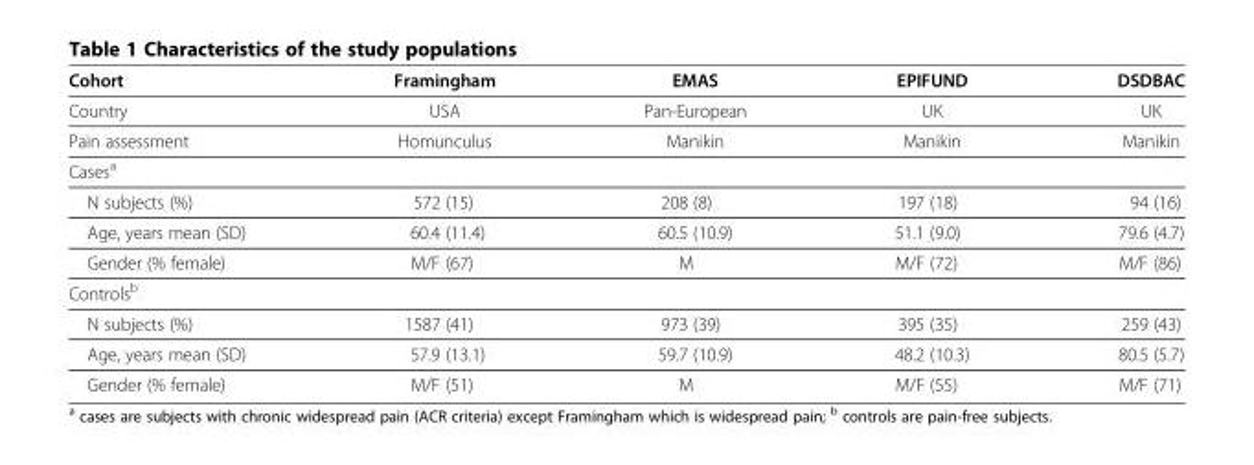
<table><thead><tr><td rowspan="3">Cohort Country Pain assessment</td><td rowspan="3">Framingham USA Homunculus</td><td rowspan="3">EMAS Pan-European Manikin</td><td rowspan="3">EPIFUND UK Manikin</td><td rowspan="3">DSDBAC UK Manikin</td></tr><tr></tr><tr></tr></thead><tbody><tr><td colspan="5">Cases<sup>a</sup></td></tr><tr><td>N subjects (%)</td><td>572 (15)</td><td>208 (8)</td><td>197 (18)</td><td>94 (16)</td></tr><tr><td>Age, years mean (SD)</td><td>60.4 (11.4)</td><td>60.5 (10.9)</td><td>51.1 (9.0)</td><td>79.6 (4.7)</td></tr><tr><td>Gender (% female)</td><td>M/F (67)</td><td>M</td><td>M/F (72)</td><td>M/F (86)</td></tr><tr><td colspan="5">Controls<sup>b</sup></td></tr><tr><td>N subjects (%)</td><td>1587 (41)</td><td>973 (39)</td><td>395 (35)</td><td>259 (43)</td></tr><tr><td>Age, years mean (SD)</td><td>57.9 (13.1)</td><td>59.7 (10.9)</td><td>48.2 (10.3)</td><td>80.5 (5.7)</td></tr><tr><td>Gender (% female)</td><td>M/F (51)</td><td>M</td><td>M/F (55)</td><td>M/F (71)</td></tr></tbody></table>